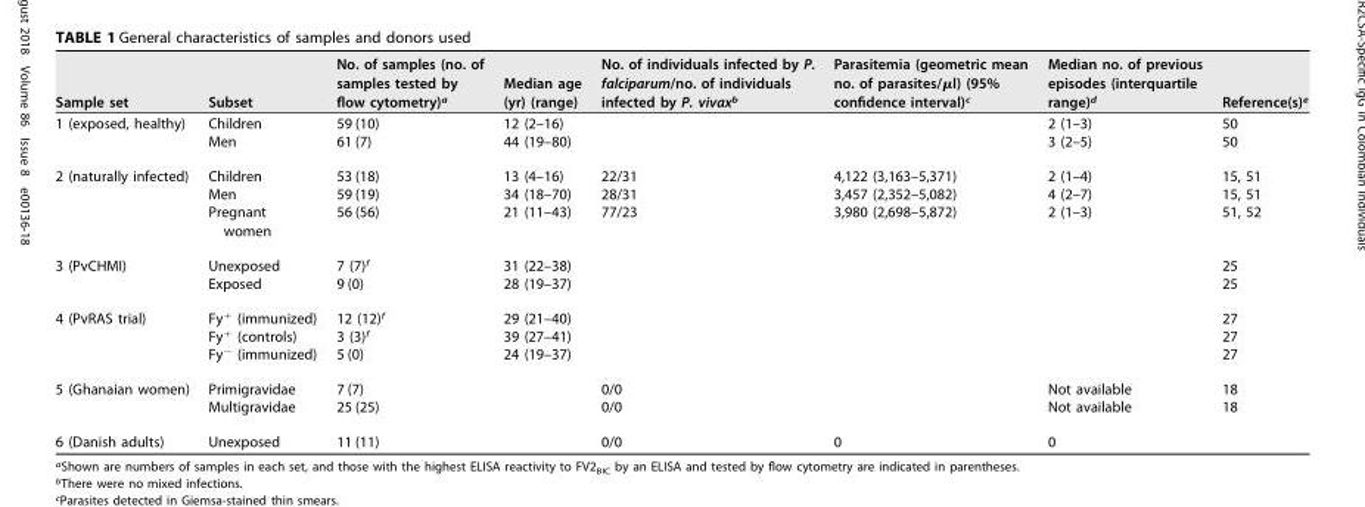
<table><thead><tr><td>Sample set</td><td>Subset</td><td>No. of samples (no. of samples tested by flow cytometry)<sup>a</sup></td><td>Median age (yr) (range)</td><td>No. of individuals infected by P. falciparum/no. of individuals infected by P. vivax<sup>b</sup></td><td>Parasitemia (geometric mean no. of parasites/μl) (95% confidence interval)<sup>c</sup></td><td>Median no. of previous episodes (interquartile range)<sup>d</sup></td><td>Reference(s)<sup>e</sup></td></tr></thead><tbody><tr><td rowspan="2">1 (exposed, healthy)</td><td>Children</td><td>59 (10)</td><td>12 (2–16)</td><td></td><td></td><td>2 (1–3)</td><td>50</td></tr><tr><td>Men</td><td>61 (7)</td><td>44 (19–80)</td><td></td><td></td><td>3 (2–5)</td><td>50</td></tr><tr><td rowspan="3">2 (naturally infected)</td><td>Children</td><td>53 (18)</td><td>13 (4–16)</td><td>22/31</td><td>4,122 (3,163–5,371)</td><td>2 (1–4)</td><td>15, 51</td></tr><tr><td>Men</td><td>59 (19)</td><td>34 (18–70)</td><td>28/31</td><td>3,457 (2,352–5,082)</td><td>4 (2–7)</td><td>15, 51</td></tr><tr><td>Pregnant women</td><td>56 (56)</td><td>21 (11–43)</td><td>77/23</td><td>3,980 (2,698–5,872)</td><td>2 (1–3)</td><td>51, 52</td></tr><tr><td rowspan="2">3 (PvCHMI)</td><td>Unexposed</td><td>7 (7)<sup>f</sup></td><td>31 (22–38)</td><td></td><td></td><td></td><td>25</td></tr><tr><td>Exposed</td><td>9 (0)</td><td>28 (19–37)</td><td></td><td></td><td></td><td>25</td></tr><tr><td rowspan="3">4 (PvRAS trial)</td><td>Fy<sup>+</sup> (immunized)</td><td>12 (12)<sup>f</sup></td><td>29 (21–40)</td><td></td><td></td><td></td><td>27</td></tr><tr><td>Fy<sup>+</sup> (controls)</td><td>3 (3)<sup>f</sup></td><td>39 (27–41)</td><td></td><td></td><td></td><td>27</td></tr><tr><td>Fy<sup>−</sup> (immunized)</td><td>5 (0)</td><td>24 (19–37)</td><td></td><td></td><td></td><td>27</td></tr><tr><td rowspan="2">5 (Ghanaian women)</td><td>Primigravidae</td><td>7 (7)</td><td></td><td>0/0</td><td></td><td>Not available</td><td>18</td></tr><tr><td>Multigravidae</td><td>25 (25)</td><td></td><td>0/0</td><td></td><td>Not available</td><td>18</td></tr><tr><td>6 (Danish adults)</td><td>Unexposed</td><td>11 (11)</td><td></td><td>0/0</td><td>0</td><td>0</td><td></td></tr></tbody></table>